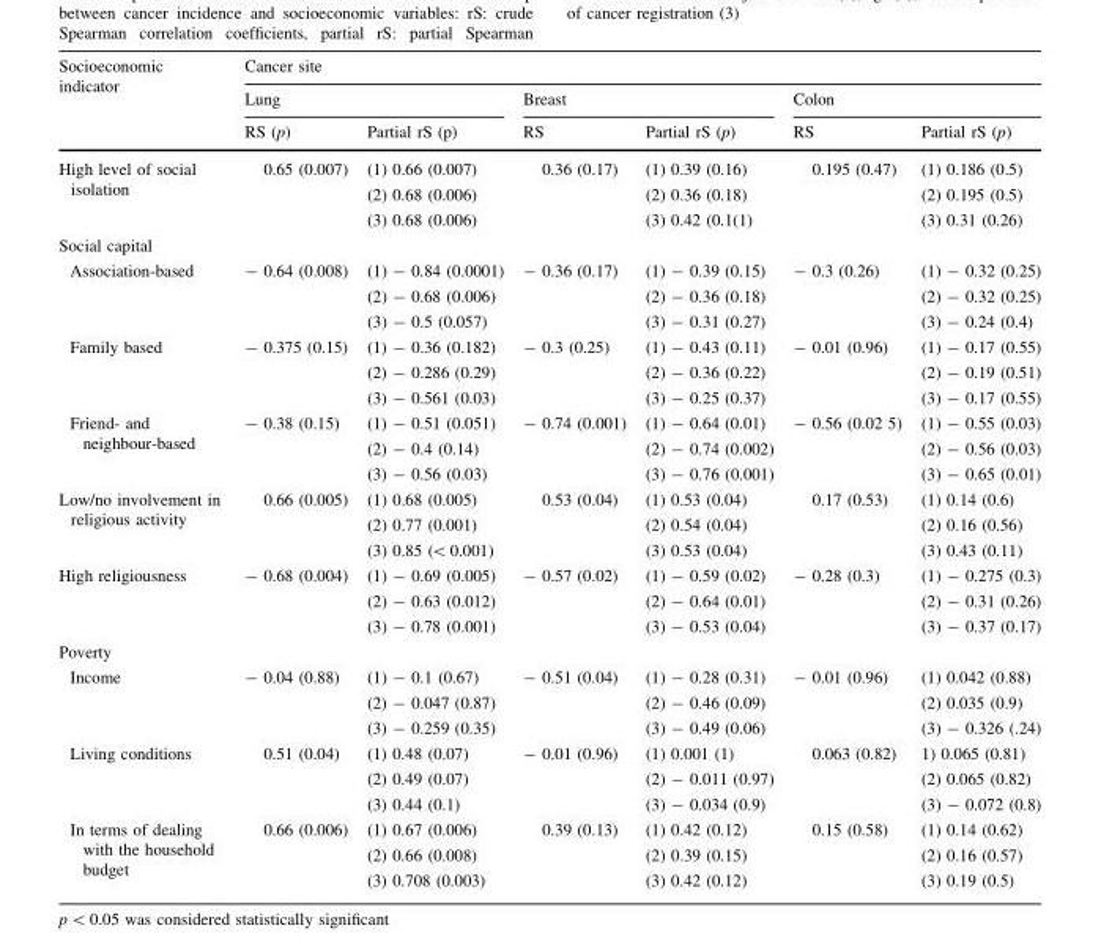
<table><thead><tr><td rowspan="3">Socioeconomic indicator</td><td colspan="6">Cancer site</td></tr><tr><td colspan="2">Lung</td><td colspan="2">Breast</td><td colspan="2">Colon</td></tr><tr><td>RS (p)</td><td>Partial rS (p)</td><td>RS</td><td>Partial rS (p)</td><td>RS</td><td>Partial rS (p)</td></tr></thead><tbody><tr><td rowspan="3">High level of social isolation</td><td rowspan="3">0.65 (0.007)</td><td>(1) 0.66 (0.007)</td><td rowspan="3">0.36 (0.17)</td><td>(1) 0.39 (0.16)</td><td rowspan="3">0.195 (0.47)</td><td>(1) 0.186 (0.5)</td></tr><tr><td>(2) 0.68 (0.006)</td><td>(2) 0.36 (0.18)</td><td>(2) 0.195 (0.5)</td></tr><tr><td>(3) 0.68 (0.006)</td><td>(3) 0.42 (0.1(1)</td><td>(3) 0.31 (0.26)</td></tr><tr><td colspan="7">Social capital</td></tr><tr><td rowspan="3">Association-based</td><td rowspan="3">- 0.64 (0.008)</td><td>(1) - 0.84 (0.0001)</td><td rowspan="3">- 0.36 (0.17)</td><td>(1) - 0.39 (0.15)</td><td rowspan="3">- 0.3 (0.26)</td><td>(1) - 0.32 (0.25)</td></tr><tr><td>(2) - 0.68 (0.006)</td><td>(2) - 0.36 (0.18)</td><td>(2) - 0.32 (0.25)</td></tr><tr><td>(3) - 0.5 (0.057)</td><td>(3) - 0.31 (0.27)</td><td>(3) - 0.24 (0.4)</td></tr><tr><td rowspan="3">Family based</td><td rowspan="3">- 0.375 (0.15)</td><td>(1) - 0.36 (0.182)</td><td rowspan="3">- 0.3 (0.25)</td><td>(1) - 0.43 (0.11)</td><td rowspan="3">- 0.01 (0.96)</td><td>(1) - 0.17 (0.55)</td></tr><tr><td>(2) - 0.286 (0.29)</td><td>(2) - 0.36 (0.22)</td><td>(2) - 0.19 (0.51)</td></tr><tr><td>(3) - 0.561 (0.03)</td><td>(3) - 0.25 (0.37)</td><td>(3) - 0.17 (0.55)</td></tr><tr><td rowspan="3">Friend- and neighbour-based</td><td rowspan="3">- 0.38 (0.15)</td><td>(1) - 0.51 (0.051)</td><td rowspan="3">- 0.74 (0.001)</td><td>(1) - 0.64 (0.01)</td><td rowspan="3">- 0.56 (0.02 5)</td><td>(1) - 0.55 (0.03)</td></tr><tr><td>(2) - 0.4 (0.14)</td><td>(2) - 0.74 (0.002)</td><td>(2) - 0.56 (0.03)</td></tr><tr><td>(3) - 0.56 (0.03)</td><td>(3) - 0.76 (0.001)</td><td>(3) - 0.65 (0.01)</td></tr><tr><td rowspan="3">Low/no involvement in religious activity</td><td rowspan="3">0.66 (0.005)</td><td>(1) 0.68 (0.005)</td><td rowspan="3">0.53 (0.04)</td><td>(1) 0.53 (0.04)</td><td rowspan="3">0.17 (0.53)</td><td>(1) 0.14 (0.6)</td></tr><tr><td>(2) 0.77 (0.001)</td><td>(2) 0.54 (0.04)</td><td>(2) 0.16 (0.56)</td></tr><tr><td>(3) 0.85 (&lt; 0.001)</td><td>(3) 0.53 (0.04)</td><td>(3) 0.43 (0.11)</td></tr><tr><td rowspan="3">High religiousness</td><td rowspan="3">- 0.68 (0.004)</td><td>(1) - 0.69 (0.005)</td><td rowspan="3">- 0.57 (0.02)</td><td>(1) - 0.59 (0.02)</td><td rowspan="3">- 0.28 (0.3)</td><td>(1) - 0.275 (0.3)</td></tr><tr><td>(2) - 0.63 (0.012)</td><td>(2) - 0.64 (0.01)</td><td>(2) - 0.31 (0.26)</td></tr><tr><td>(3) - 0.78 (0.001)</td><td>(3) - 0.53 (0.04)</td><td>(3) - 0.37 (0.17)</td></tr><tr><td colspan="7">Poverty</td></tr><tr><td rowspan="3">Income</td><td rowspan="3">- 0.04 (0.88)</td><td>(1) - 0.1 (0.67)</td><td rowspan="3">- 0.51 (0.04)</td><td>(1) - 0.28 (0.31)</td><td rowspan="3">- 0.01 (0.96)</td><td>(1) 0.042 (0.88)</td></tr><tr><td>(2) - 0.047 (0.87)</td><td>(2) - 0.46 (0.09)</td><td>(2) 0.035 (0.9)</td></tr><tr><td>(3) - 0.259 (0.35)</td><td>(3) - 0.49 (0.06)</td><td>(3) - 0.326 (.24)</td></tr><tr><td rowspan="3">Living conditions</td><td rowspan="3">0.51 (0.04)</td><td>(1) 0.48 (0.07)</td><td rowspan="3">- 0.01 (0.96)</td><td>(1) 0.001 (1)</td><td rowspan="3">0.063 (0.82)</td><td>1) 0.065 (0.81)</td></tr><tr><td>(2) 0.49 (0.07)</td><td>(2) - 0.011 (0.97)</td><td>(2) 0.065 (0.82)</td></tr><tr><td>(3) 0.44 (0.1)</td><td>(3) - 0.034 (0.9)</td><td>(3) - 0.072 (0.8)</td></tr><tr><td rowspan="3">In terms of dealing with the household budget</td><td rowspan="3">0.66 (0.006)</td><td>(1) 0.67 (0.006)</td><td rowspan="3">0.39 (0.13)</td><td>(1) 0.42 (0.12)</td><td rowspan="3">0.15 (0.58)</td><td>(1) 0.14 (0.62)</td></tr><tr><td>(2) 0.66 (0.008)</td><td>(2) 0.39 (0.15)</td><td>(2) 0.16 (0.57)</td></tr><tr><td>(3) 0.708 (0.003)</td><td>(3) 0.42 (0.12)</td><td>(3) 0.19 (0.5)</td></tr></tbody></table>